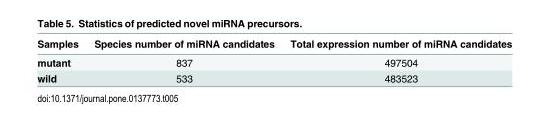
<table><thead><tr><td>Samples</td><td>Species number of miRNA candidates</td><td>Total expression number of miRNA candidates</td></tr></thead><tbody><tr><td>mutant</td><td>837</td><td>497504</td></tr><tr><td>wild</td><td>533</td><td>483523</td></tr></tbody></table>